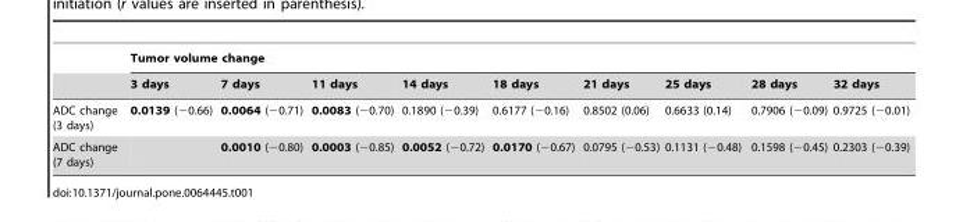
<table><thead><tr><td rowspan="2"></td><td colspan="9">Tumor volume change</td></tr><tr><td>3 days</td><td>7 days</td><td>11 days</td><td>14 days</td><td>18 days</td><td>21 days</td><td>25 days</td><td>28 days</td><td>32 days</td></tr></thead><tbody><tr><td>ADC change (3 days)</td><td>0.0139 (−0.66)</td><td>0.0064 (−0.71)</td><td>0.0083 (−0.70)</td><td>0.1890 (−0.39)</td><td>0.6177 (−0.16)</td><td>0.8502 (0.06)</td><td>0.6633 (0.14)</td><td>0.7906 (−0.09)</td><td>0.9725 (−0.01)</td></tr><tr><td>ADC change (7 days)</td><td></td><td>0.0010 (−0.80)</td><td>0.0003 (−0.85)</td><td>0.0052 (−0.72)</td><td>0.0170 (−0.67)</td><td>0.0795 (−0.53)</td><td>0.1131 (−0.48)</td><td>0.1598 (−0.45)</td><td>0.2303 (−0.39)</td></tr></tbody></table>